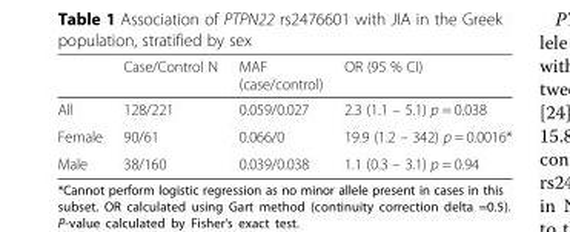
<table><thead><tr><td></td><td>Case/Control N</td><td>MAF (case/control)</td><td>OR (95 % CI)</td></tr></thead><tbody><tr><td>All</td><td>128/221</td><td>0.059/0.027</td><td>2.3 (1.1 – 5.1) p = 0.038</td></tr><tr><td>Female</td><td>90/61</td><td>0.066/0</td><td>19.9 (1.2 – 342) p = 0.0016*</td></tr><tr><td>Male</td><td>38/160</td><td>0.039/0.038</td><td>1.1 (0.3 – 3.1) p = 0.94</td></tr></tbody></table>